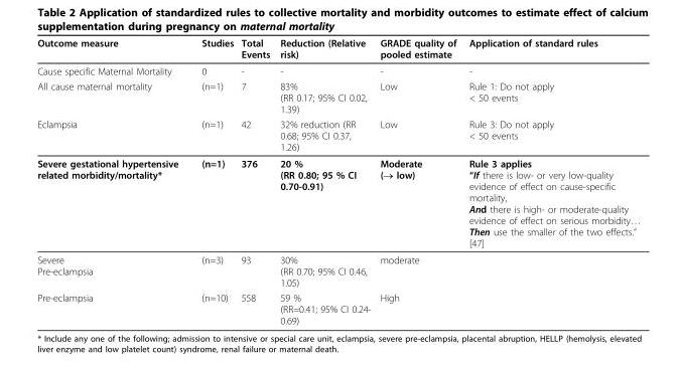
<table><thead><tr><td>Outcome measure</td><td>Studies</td><td>Total Events</td><td>Reduction (Relative risk)</td><td>GRADE quality of pooled estimate</td><td>Application of standard rules</td></tr></thead><tbody><tr><td>Cause specific Maternal Mortality</td><td>0</td><td>-</td><td>-</td><td>-</td><td>-</td></tr><tr><td>All cause maternal mortality</td><td>(n=1)</td><td>7</td><td>83% (RR 0.17; 95% CI 0.02, 1.39)</td><td>Low</td><td>Rule 1: Do not apply &lt; 50 events</td></tr><tr><td>Eclampsia</td><td>(n=1)</td><td>42</td><td>32% reduction (RR 0.68; 95% CI 0.37, 1.26)</td><td>Low</td><td>Rule 3: Do not apply &lt; 50 events</td></tr><tr><td>Severe gestational hypertensive related morbidity/mortality*</td><td>(n=1)</td><td>376</td><td>20 % (RR 0.80; 95 % CI 0.70-0.91)</td><td>Moderate (→ low)</td><td>Rule 3 applies “If there is low- or very low-quality evidence of effect on cause-specific mortality, And there is high- or moderate-quality evidence of effect on serious morbidity… Then use the smaller of the two effects.” [47]</td></tr><tr><td>Severe Pre-eclampsia</td><td>(n=3)</td><td>93</td><td>30% (RR 0.70; 95% CI 0.46, 1.05)</td><td>moderate</td><td></td></tr><tr><td>Pre-eclampsia</td><td>(n=10)</td><td>558</td><td>59 % (RR=0.41; 95% CI 0.24- 0.69)</td><td>High</td><td></td></tr></tbody></table>